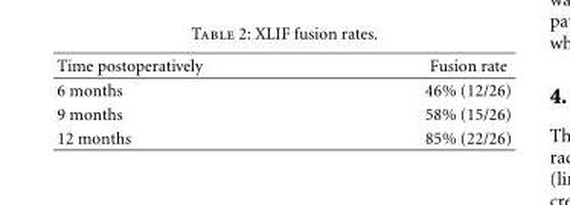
<table><thead><tr><td>Time postoperatively</td><td>Fusion rate</td></tr></thead><tbody><tr><td>6 months</td><td>46% (12/26)</td></tr><tr><td>9 months</td><td>58% (15/26)</td></tr><tr><td>12 months</td><td>85% (22/26)</td></tr></tbody></table>